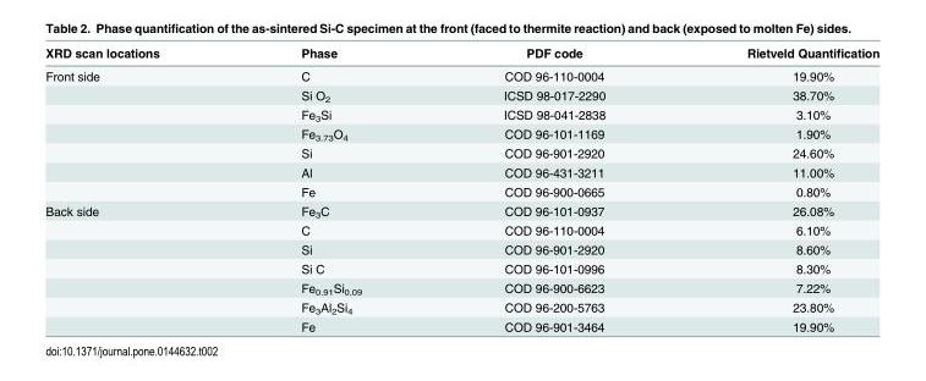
<table><thead><tr><td>XRD scan locations</td><td>Phase</td><td>PDF code</td><td>Rietveld Quantification</td></tr></thead><tbody><tr><td rowspan="7">Front side</td><td>C</td><td>COD 96-110-0004</td><td>19.90%</td></tr><tr><td>Si O<sub>2</sub></td><td>ICSD 98-017-2290</td><td>38.70%</td></tr><tr><td>Fe<sub>3</sub>Si</td><td>ICSD 98-041-2838</td><td>3.10%</td></tr><tr><td>Fe<sub>3.73</sub>O<sub>4</sub></td><td>COD 96-101-1169</td><td>1.90%</td></tr><tr><td>Si</td><td>COD 96-901-2920</td><td>24.60%</td></tr><tr><td>Al</td><td>COD 96-431-3211</td><td>11.00%</td></tr><tr><td>Fe</td><td>COD 96-900-0665</td><td>0.80%</td></tr><tr><td rowspan="7">Back side</td><td>Fe<sub>3</sub>C</td><td>COD 96-101-0937</td><td>26.08%</td></tr><tr><td>C</td><td>COD 96-110-0004</td><td>6.10%</td></tr><tr><td>Si</td><td>COD 96-901-2920</td><td>8.60%</td></tr><tr><td>Si C</td><td>COD 96-101-0996</td><td>8.30%</td></tr><tr><td>Fe<sub>0.91</sub>Si<sub>0.09</sub></td><td>COD 96-900-6623</td><td>7.22%</td></tr><tr><td>Fe<sub>3</sub>Al<sub>2</sub>Si<sub>4</sub></td><td>COD 96-200-5763</td><td>23.80%</td></tr><tr><td>Fe</td><td>COD 96-901-3464</td><td>19.90%</td></tr></tbody></table>